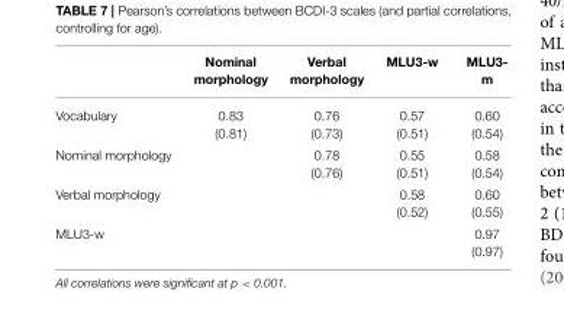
<table><thead><tr><td></td><td>Nominal morphology</td><td>Verbal morphology</td><td>MLU3-w</td><td>MLU3- m</td></tr></thead><tbody><tr><td>Vocabulary</td><td>0.83 (0.81)</td><td>0.76 (0.73)</td><td>0.57 (0.51)</td><td>0.60 (0.54)</td></tr><tr><td>Nominal morphology</td><td></td><td>0.78 (0.76)</td><td>0.55 (0.51)</td><td>0.58 (0.54)</td></tr><tr><td>Verbal morphology</td><td></td><td></td><td>0.58 (0.52)</td><td>0.60 (0.55)</td></tr><tr><td>MLU3-w</td><td></td><td></td><td></td><td>0.97 (0.97)</td></tr></tbody></table>